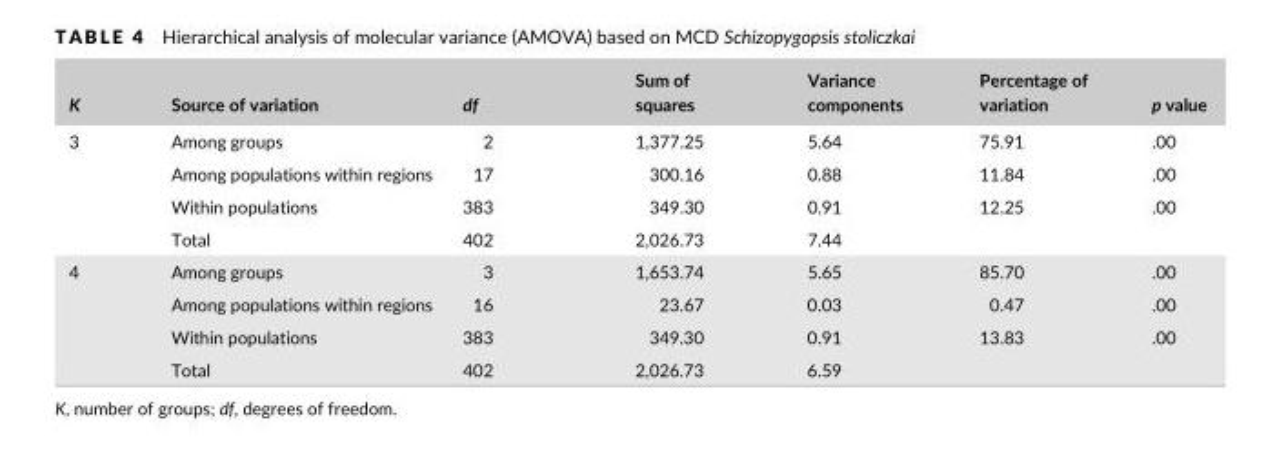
<table><thead><tr><td>K</td><td>Source of variation</td><td>df</td><td>Sum of squares</td><td>Variance components</td><td>Percentage of variation</td><td>p value</td></tr></thead><tbody><tr><td rowspan="4">3</td><td>Among groups</td><td>2</td><td>1,377.25</td><td>5.64</td><td>75.91</td><td>.00</td></tr><tr><td>Among populations within regions</td><td>17</td><td>300.16</td><td>0.88</td><td>11.84</td><td>.00</td></tr><tr><td>Within populations</td><td>383</td><td>349.30</td><td>0.91</td><td>12.25</td><td>.00</td></tr><tr><td>Total</td><td>402</td><td>2,026.73</td><td>7.44</td><td></td><td></td></tr><tr><td rowspan="4">4</td><td>Among groups</td><td>3</td><td>1,653.74</td><td>5.65</td><td>85.70</td><td>.00</td></tr><tr><td>Among populations within regions</td><td>16</td><td>23.67</td><td>0.03</td><td>0.47</td><td>.00</td></tr><tr><td>Within populations</td><td>383</td><td>349.30</td><td>0.91</td><td>13.83</td><td>.00</td></tr><tr><td>Total</td><td>402</td><td>2,026.73</td><td>6.59</td><td></td><td></td></tr></tbody></table>